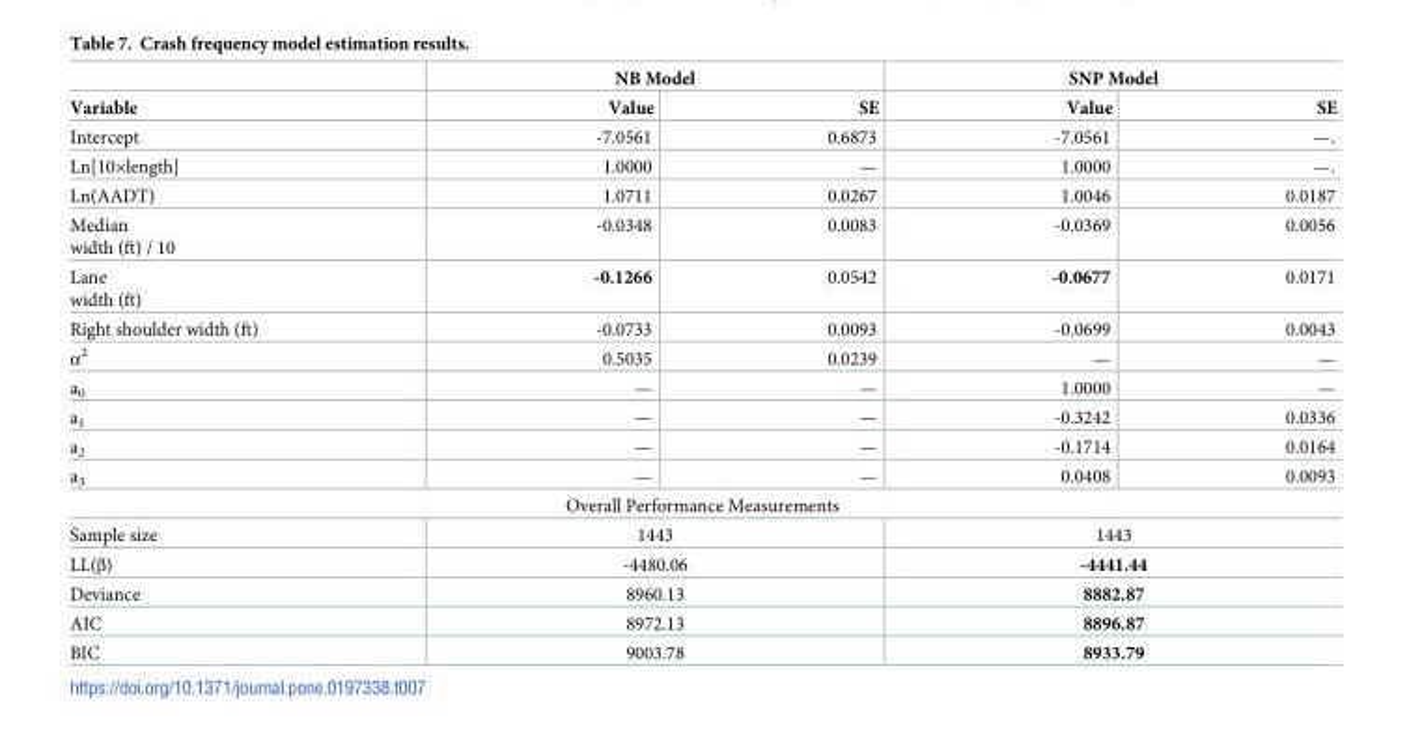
<table><thead><tr><td rowspan="2">Variable</td><td colspan="2">NB Model</td><td colspan="2">SNP Model</td></tr><tr><td>Value</td><td>SE</td><td>Value</td><td>SE</td></tr></thead><tbody><tr><td>Intercept</td><td>-7.0561</td><td>0.6873</td><td>-7.0561</td><td>—.</td></tr><tr><td>Ln[10×length]</td><td>1.0000</td><td>—</td><td>1.0000</td><td>—.</td></tr><tr><td>Ln(AADT)</td><td>1.0711</td><td>0.0267</td><td>1.0046</td><td>0.0187</td></tr><tr><td>Median width (ft) / 10</td><td>-0.0348</td><td>0.0083</td><td>-0.0369</td><td>0.0056</td></tr><tr><td>Lane width (ft)</td><td>-0.1266</td><td>0.0542</td><td>-0.0677</td><td>0.0171</td></tr><tr><td>Right shoulder width (ft)</td><td>-0.0733</td><td>0.0093</td><td>-0.0699</td><td>0.0043</td></tr><tr><td>α<sup>2</sup></td><td>0.5035</td><td>0.0239</td><td>—</td><td>—</td></tr><tr><td>a<sub>0</sub></td><td>—</td><td>—</td><td>1.0000</td><td>—</td></tr><tr><td>a<sub>1</sub></td><td>—</td><td>—</td><td>-0.3242</td><td>0.0336</td></tr><tr><td>a<sub>2</sub></td><td>—</td><td>—</td><td>-0.1714</td><td>0.0164</td></tr><tr><td>a<sub>3</sub></td><td>—</td><td>—</td><td>0.0408</td><td>0.0093</td></tr><tr><td colspan="5">Overall Performance Measurements</td></tr><tr><td>Sample size</td><td colspan="2">1443</td><td colspan="2">1443</td></tr><tr><td>LL(β)</td><td colspan="2">-4480.06</td><td colspan="2">-4441.44</td></tr><tr><td>Deviance</td><td colspan="2">8960.13</td><td colspan="2">8882.87</td></tr><tr><td>AIC</td><td colspan="2">8972.13</td><td colspan="2">8896.87</td></tr><tr><td>BIC</td><td colspan="2">9003.78</td><td colspan="2">8933.79</td></tr></tbody></table>